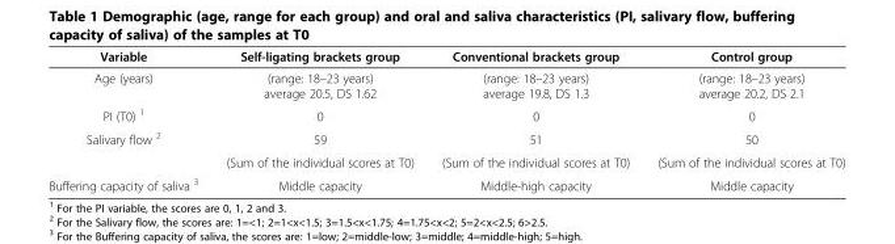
<table><thead><tr><td>Variable</td><td>Self-ligating brackets group</td><td>Conventional brackets group</td><td>Control group</td></tr></thead><tbody><tr><td>Age (years)</td><td>(range: 18–23 years) average 20.5, DS 1.62</td><td>(range: 18–23 years) average 19.8, DS 1.3</td><td>(range: 18–23 years) average 20.2, DS 2.1</td></tr><tr><td>PI (T0) <sup>1</sup></td><td>0</td><td>0</td><td>0</td></tr><tr><td rowspan="2">Salivary flow <sup>2</sup></td><td>59</td><td>51</td><td>50</td></tr><tr><td>(Sum of the individual scores at T0)</td><td>(Sum of the individual scores at T0)</td><td>(Sum of the individual scores at T0)</td></tr><tr><td>Buffering capacity of saliva <sup>3</sup></td><td>Middle capacity</td><td>Middle-high capacity</td><td>Middle capacity</td></tr></tbody></table>